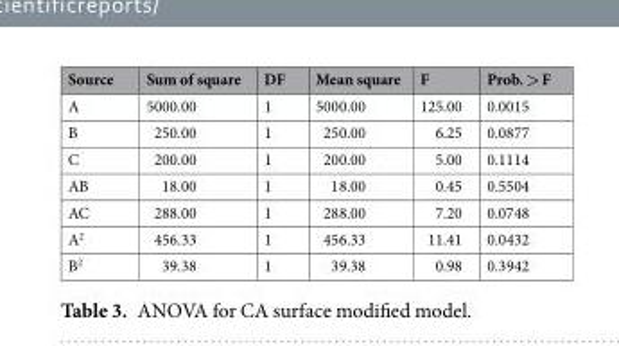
<table><thead><tr><td>Source</td><td>Sum of square</td><td>DF</td><td>Mean square</td><td>F</td><td>Prob. &gt; F</td></tr></thead><tbody><tr><td>A</td><td>5000.00</td><td>1</td><td>5000.00</td><td>125.00</td><td>0.0015</td></tr><tr><td>B</td><td>250.00</td><td>1</td><td>250.00</td><td>6.25</td><td>0.0877</td></tr><tr><td>C</td><td>200.00</td><td>1</td><td>200.00</td><td>5.00</td><td>0.1114</td></tr><tr><td>AB</td><td>18.00</td><td>1</td><td>18.00</td><td>0.45</td><td>0.5504</td></tr><tr><td>AC</td><td>288.00</td><td>1</td><td>288.00</td><td>7.20</td><td>0.0748</td></tr><tr><td>A<sup>2</sup></td><td>456.33</td><td>1</td><td>456.33</td><td>11.41</td><td>0.0432</td></tr><tr><td>B<sup>2</sup></td><td>39.38</td><td>1</td><td>39.38</td><td>0.98</td><td>0.3942</td></tr></tbody></table>